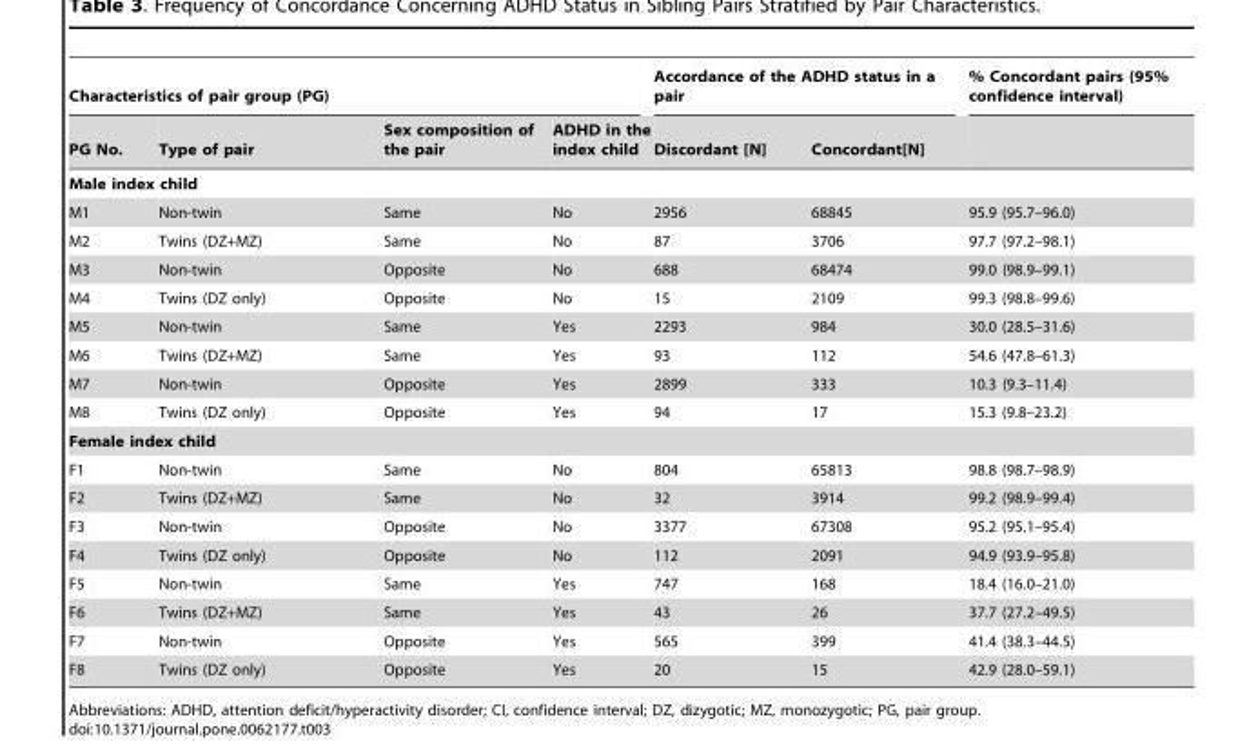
<table><thead><tr><td colspan="4">Characteristics of pair group (PG)</td><td colspan="2">Accordance of the ADHD status in a pair</td><td rowspan="2">% Concordant pairs (95% confidence interval)</td></tr><tr><td>PG No.</td><td>Type of pair</td><td>Sex composition of the pair</td><td>ADHD in the index child</td><td>Discordant [N]</td><td>Concordant[N]</td></tr></thead><tbody><tr><td colspan="7">Male index child</td></tr><tr><td>M1</td><td>Non-twin</td><td>Same</td><td>No</td><td>2956</td><td>68845</td><td>95.9 (95.7–96.0)</td></tr><tr><td>M2</td><td>Twins (DZ+MZ)</td><td>Same</td><td>No</td><td>87</td><td>3706</td><td>97.7 (97.2–98.1)</td></tr><tr><td>M3</td><td>Non-twin</td><td>Opposite</td><td>No</td><td>688</td><td>68474</td><td>99.0 (98.9–99.1)</td></tr><tr><td>M4</td><td>Twins (DZ only)</td><td>Opposite</td><td>No</td><td>15</td><td>2109</td><td>99.3 (98.8–99.6)</td></tr><tr><td>M5</td><td>Non-twin</td><td>Same</td><td>Yes</td><td>2293</td><td>984</td><td>30.0 (28.5–31.6)</td></tr><tr><td>M6</td><td>Twins (DZ+MZ)</td><td>Same</td><td>Yes</td><td>93</td><td>112</td><td>54.6 (47.8–61.3)</td></tr><tr><td>M7</td><td>Non-twin</td><td>Opposite</td><td>Yes</td><td>2899</td><td>333</td><td>10.3 (9.3–11.4)</td></tr><tr><td>M8</td><td>Twins (DZ only)</td><td>Opposite</td><td>Yes</td><td>94</td><td>17</td><td>15.3 (9.8–23.2)</td></tr><tr><td colspan="7">Female index child</td></tr><tr><td>F1</td><td>Non-twin</td><td>Same</td><td>No</td><td>804</td><td>65813</td><td>98.8 (98.7–98.9)</td></tr><tr><td>F2</td><td>Twins (DZ+MZ)</td><td>Same</td><td>No</td><td>32</td><td>3914</td><td>99.2 (98.9–99.4)</td></tr><tr><td>F3</td><td>Non-twin</td><td>Opposite</td><td>No</td><td>3377</td><td>67308</td><td>95.2 (95.1–95.4)</td></tr><tr><td>F4</td><td>Twins (DZ only)</td><td>Opposite</td><td>No</td><td>112</td><td>2091</td><td>94.9 (93.9–95.8)</td></tr><tr><td>F5</td><td>Non-twin</td><td>Same</td><td>Yes</td><td>747</td><td>168</td><td>18.4 (16.0–21.0)</td></tr><tr><td>F6</td><td>Twins (DZ+MZ)</td><td>Same</td><td>Yes</td><td>43</td><td>26</td><td>37.7 (27.2–49.5)</td></tr><tr><td>F7</td><td>Non-twin</td><td>Opposite</td><td>Yes</td><td>565</td><td>399</td><td>41.4 (38.3–44.5)</td></tr><tr><td>F8</td><td>Twins (DZ only)</td><td>Opposite</td><td>Yes</td><td>20</td><td>15</td><td>42.9 (28.0–59.1)</td></tr></tbody></table>